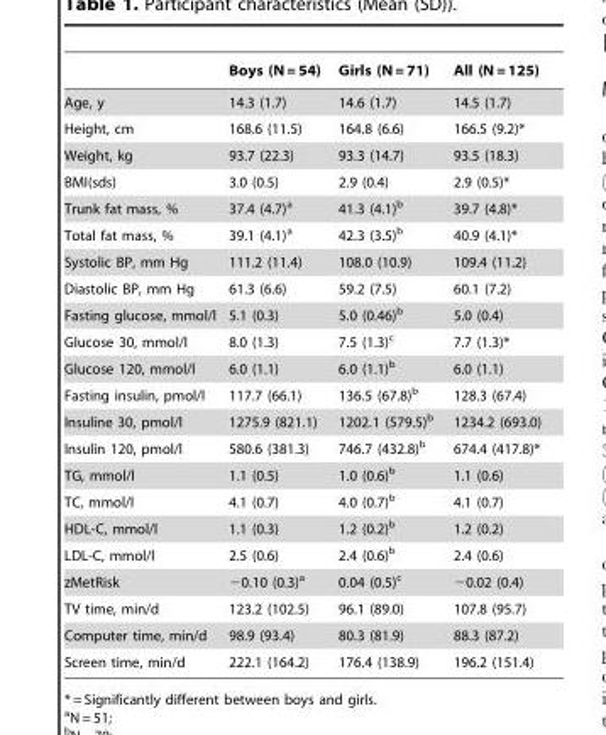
<table><thead><tr><td></td><td>Boys (N = 54)</td><td>Girls (N = 71)</td><td>All (N = 125)</td></tr></thead><tbody><tr><td>Age, y</td><td>14.3 (1.7)</td><td>14.6 (1.7)</td><td>14.5 (1.7)</td></tr><tr><td>Height, cm</td><td>168.6 (11.5)</td><td>164.8 (6.6)</td><td>166.5 (9.2)*</td></tr><tr><td>Weight, kg</td><td>93.7 (22.3)</td><td>93.3 (14.7)</td><td>93.5 (18.3)</td></tr><tr><td>BMI(sds)</td><td>3.0 (0.5)</td><td>2.9 (0.4)</td><td>2.9 (0.5)*</td></tr><tr><td>Trunk fat mass, %</td><td>37.4 (4.7)<sup>a</sup></td><td>41.3 (4.1)<sup>b</sup></td><td>39.7 (4.8)*</td></tr><tr><td>Total fat mass, %</td><td>39.1 (4.1)<sup>a</sup></td><td>42.3 (3.5)<sup>b</sup></td><td>40.9 (4.1)*</td></tr><tr><td>Systolic BP, mm Hg</td><td>111.2 (11.4)</td><td>108.0 (10.9)</td><td>109.4 (11.2)</td></tr><tr><td>Diastolic BP, mm Hg</td><td>61.3 (6.6)</td><td>59.2 (7.5)</td><td>60.1 (7.2)</td></tr><tr><td>Fasting glucose, mmol/l</td><td>5.1 (0.3)</td><td>5.0 (0.46)<sup>b</sup></td><td>5.0 (0.4)</td></tr><tr><td>Glucose 30, mmol/l</td><td>8.0 (1.3)</td><td>7.5 (1.3)<sup>c</sup></td><td>7.7 (1.3)*</td></tr><tr><td>Glucose 120, mmol/l</td><td>6.0 (1.1)</td><td>6.0 (1.1)<sup>b</sup></td><td>6.0 (1.1)</td></tr><tr><td>Fasting insulin, pmol/l</td><td>117.7 (66.1)</td><td>136.5 (67.8)<sup>b</sup></td><td>128.3 (67.4)</td></tr><tr><td>Insuline 30, pmol/l</td><td>1275.9 (821.1)</td><td>1202.1 (579.5)<sup>b</sup></td><td>1234.2 (693.0)</td></tr><tr><td>Insulin 120, pmol/l</td><td>580.6 (381.3)</td><td>746.7 (432.8)<sup>b</sup></td><td>674.4 (417.8)*</td></tr><tr><td>TG, mmol/l</td><td>1.1 (0.5)</td><td>1.0 (0.6)<sup>b</sup></td><td>1.1 (0.6)</td></tr><tr><td>TC, mmol/l</td><td>4.1 (0.7)</td><td>4.0 (0.7)<sup>b</sup></td><td>4.1 (0.7)</td></tr><tr><td>HDL-C, mmol/l</td><td>1.1 (0.3)</td><td>1.2 (0.2)<sup>b</sup></td><td>1.2 (0.2)</td></tr><tr><td>LDL-C, mmol/l</td><td>2.5 (0.6)</td><td>2.4 (0.6)<sup>b</sup></td><td>2.4 (0.6)</td></tr><tr><td>zMetRisk</td><td>−0.10 (0.3)<sup>a</sup></td><td>0.04 (0.5)<sup>c</sup></td><td>−0.02 (0.4)</td></tr><tr><td>TV time, min/d</td><td>123.2 (102.5)</td><td>96.1 (89.0)</td><td>107.8 (95.7)</td></tr><tr><td>Computer time, min/d</td><td>98.9 (93.4)</td><td>80.3 (81.9)</td><td>88.3 (87.2)</td></tr><tr><td>Screen time, min/d</td><td>222.1 (164.2)</td><td>176.4 (138.9)</td><td>196.2 (151.4)</td></tr></tbody></table>